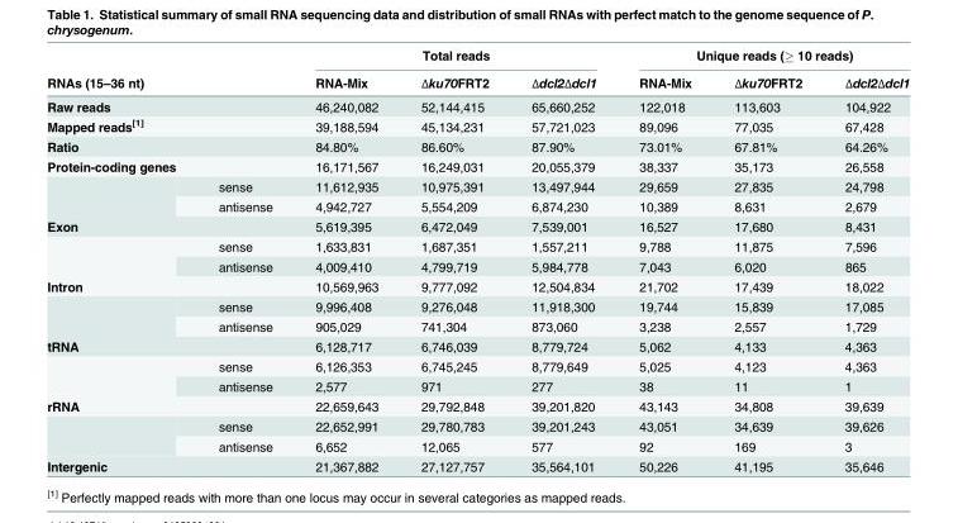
<table><thead><tr><td rowspan="2">RNAs (15–36 nt)</td><td rowspan="2"></td><td colspan="3">Total reads</td><td colspan="3">Unique reads (≥ 10 reads)</td></tr><tr><td>RNA-Mix</td><td>Δku70FRT2</td><td>Δdcl2Δdcl1</td><td>RNA-Mix</td><td>Δku70FRT2</td><td>Δdcl2Δdcl1</td></tr></thead><tbody><tr><td>Raw reads</td><td></td><td>46,240,082</td><td>52,144,415</td><td>65,660,252</td><td>122,018</td><td>113,603</td><td>104,922</td></tr><tr><td>Mapped reads<sup>[1]</sup></td><td></td><td>39,188,594</td><td>45,134,231</td><td>57,721,023</td><td>89,096</td><td>77,035</td><td>67,428</td></tr><tr><td>Ratio</td><td></td><td>84.80%</td><td>86.60%</td><td>87.90%</td><td>73.01%</td><td>67.81%</td><td>64.26%</td></tr><tr><td rowspan="3">Protein-coding genes</td><td></td><td>16,171,567</td><td>16,249,031</td><td>20,055,379</td><td>38,337</td><td>35,173</td><td>26,558</td></tr><tr><td>sense</td><td>11,612,935</td><td>10,975,391</td><td>13,497,944</td><td>29,659</td><td>27,835</td><td>24,798</td></tr><tr><td>antisense</td><td>4,942,727</td><td>5,554,209</td><td>6,874,230</td><td>10,389</td><td>8,631</td><td>2,679</td></tr><tr><td rowspan="3">Exon</td><td></td><td>5,619,395</td><td>6,472,049</td><td>7,539,001</td><td>16,527</td><td>17,680</td><td>8,431</td></tr><tr><td>sense</td><td>1,633,831</td><td>1,687,351</td><td>1,557,211</td><td>9,788</td><td>11,875</td><td>7,596</td></tr><tr><td>antisense</td><td>4,009,410</td><td>4,799,719</td><td>5,984,778</td><td>7,043</td><td>6,020</td><td>865</td></tr><tr><td rowspan="3">Intron</td><td></td><td>10,569,963</td><td>9,777,092</td><td>12,504,834</td><td>21,702</td><td>17,439</td><td>18,022</td></tr><tr><td>sense</td><td>9,996,408</td><td>9,276,048</td><td>11,918,300</td><td>19,744</td><td>15,839</td><td>17,085</td></tr><tr><td>antisense</td><td>905,029</td><td>741,304</td><td>873,060</td><td>3,238</td><td>2,557</td><td>1,729</td></tr><tr><td rowspan="3">tRNA</td><td></td><td>6,128,717</td><td>6,746,039</td><td>8,779,724</td><td>5,062</td><td>4,133</td><td>4,363</td></tr><tr><td>sense</td><td>6,126,353</td><td>6,745,245</td><td>8,779,649</td><td>5,025</td><td>4,123</td><td>4,363</td></tr><tr><td>antisense</td><td>2,577</td><td>971</td><td>277</td><td>38</td><td>11</td><td>1</td></tr><tr><td rowspan="3">rRNA</td><td></td><td>22,659,643</td><td>29,792,848</td><td>39,201,820</td><td>43,143</td><td>34,808</td><td>39,639</td></tr><tr><td>sense</td><td>22,652,991</td><td>29,780,783</td><td>39,201,243</td><td>43,051</td><td>34,639</td><td>39,626</td></tr><tr><td>antisense</td><td>6,652</td><td>12,065</td><td>577</td><td>92</td><td>169</td><td>3</td></tr><tr><td>Intergenic</td><td></td><td>21,367,882</td><td>27,127,757</td><td>35,564,101</td><td>50,226</td><td>41,195</td><td>35,646</td></tr></tbody></table>